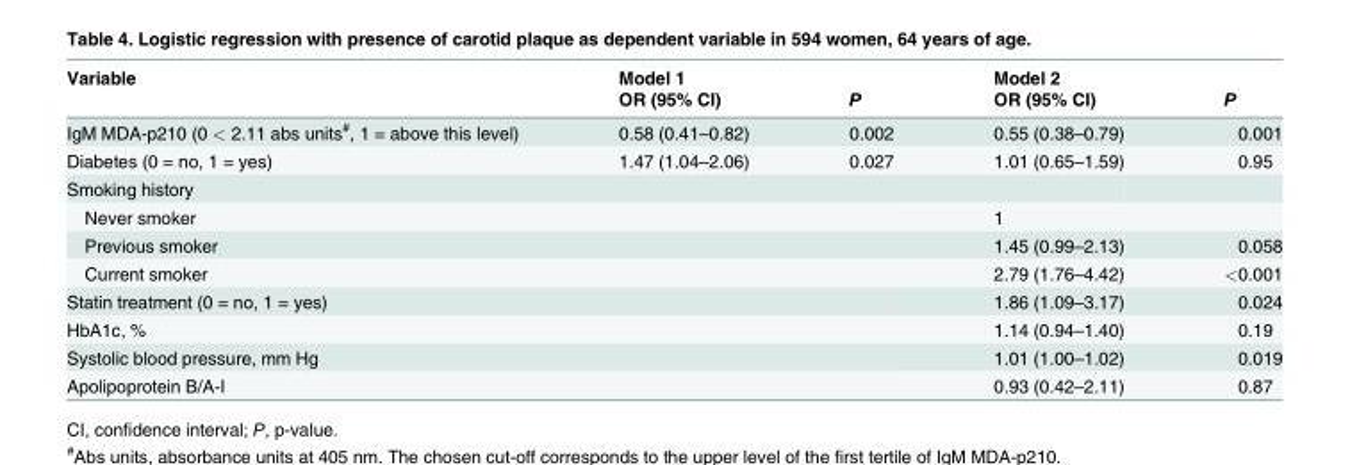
<table><thead><tr><td rowspan="2">Variable</td><td rowspan="2">Model 1 OR (95% CI)</td><td rowspan="2">P</td><td rowspan="2">Model 2 OR (95% CI)</td><td rowspan="2">P</td></tr><tr></tr></thead><tbody><tr><td>IgM MDA-p210 (0 &lt; 2.11 abs units<sup>#</sup>, 1 = above this level)</td><td>0.58 (0.41–0.82)</td><td>0.002</td><td>0.55 (0.38–0.79)</td><td>0.001</td></tr><tr><td>Diabetes (0 = no, 1 = yes)</td><td>1.47 (1.04–2.06)</td><td>0.027</td><td>1.01 (0.65–1.59)</td><td>0.95</td></tr><tr><td colspan="5">Smoking history</td></tr><tr><td>Never smoker</td><td></td><td></td><td>1</td><td></td></tr><tr><td>Previous smoker</td><td></td><td></td><td>1.45 (0.99–2.13)</td><td>0.058</td></tr><tr><td>Current smoker</td><td></td><td></td><td>2.79 (1.76–4.42)</td><td>&lt;0.001</td></tr><tr><td>Statin treatment (0 = no, 1 = yes)</td><td></td><td></td><td>1.86 (1.09–3.17)</td><td>0.024</td></tr><tr><td>HbA1c, %</td><td></td><td></td><td>1.14 (0.94–1.40)</td><td>0.19</td></tr><tr><td>Systolic blood pressure, mm Hg</td><td></td><td></td><td>1.01 (1.00–1.02)</td><td>0.019</td></tr><tr><td>Apolipoprotein B/A-I</td><td></td><td></td><td>0.93 (0.42–2.11)</td><td>0.87</td></tr></tbody></table>